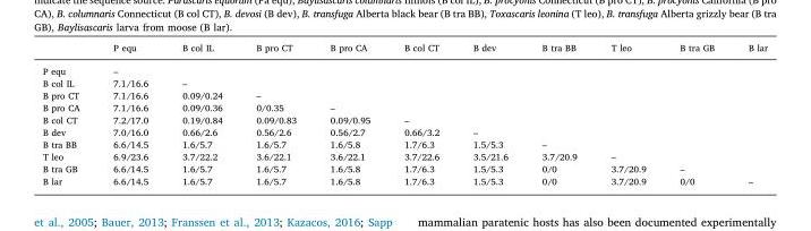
<table><thead><tr><td></td><td>P equ</td><td>B col IL</td><td>B pro CT</td><td>B pro CA</td><td>B col CT</td><td>B dev</td><td>B tra BB</td><td>T leo</td><td>B tra GB</td><td>B lar</td></tr></thead><tbody><tr><td>P equ</td><td>–</td><td></td><td></td><td></td><td></td><td></td><td></td><td></td><td></td><td></td></tr><tr><td>B col IL</td><td>7.1/16.6</td><td>–</td><td></td><td></td><td></td><td></td><td></td><td></td><td></td><td></td></tr><tr><td>B pro CT</td><td>7.1/16.6</td><td>0.09/0.24</td><td>–</td><td></td><td></td><td></td><td></td><td></td><td></td><td></td></tr><tr><td>B pro CA</td><td>7.1/16.6</td><td>0.09/0.36</td><td>0/0.35</td><td>–</td><td></td><td></td><td></td><td></td><td></td><td></td></tr><tr><td>B col CT</td><td>7.2/17.0</td><td>0.19/0.84</td><td>0.09/0.83</td><td>0.09/0.95</td><td>–</td><td></td><td></td><td></td><td></td><td></td></tr><tr><td>B dev</td><td>7.0/16.0</td><td>0.66/2.6</td><td>0.56/2.6</td><td>0.56/2.7</td><td>0.66/3.2</td><td>–</td><td></td><td></td><td></td><td></td></tr><tr><td>B tra BB</td><td>6.6/14.5</td><td>1.6/5.7</td><td>1.6/5.7</td><td>1.6/5.8</td><td>1.7/6.3</td><td>1.5/5.3</td><td>–</td><td></td><td></td><td></td></tr><tr><td>T leo</td><td>6.9/23.6</td><td>3.7/22.2</td><td>3.6/22.1</td><td>3.6/22.1</td><td>3.7/22.6</td><td>3.5/21.6</td><td>3.7/20.9</td><td>–</td><td></td><td></td></tr><tr><td>B tra GB</td><td>6.6/14.5</td><td>1.6/5.7</td><td>1.6/5.7</td><td>1.6/5.8</td><td>1.7/6.3</td><td>1.5/5.3</td><td>0/0</td><td>3.7/20.9</td><td>–</td><td></td></tr><tr><td>B lar</td><td>6.6/14.5</td><td>1.6/5.7</td><td>1.6/5.7</td><td>1.6/5.8</td><td>1.7/6.3</td><td>1.5/5.3</td><td>0/0</td><td>3.7/20.9</td><td>0/0</td><td>–</td></tr></tbody></table>